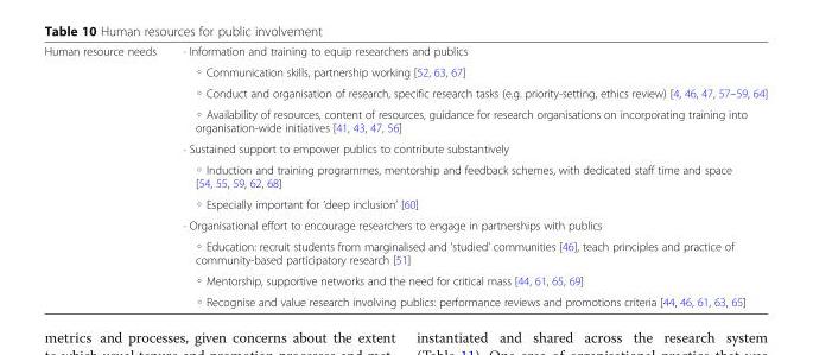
<table><tbody><tr><td rowspan="11">Human resource needs</td><td>∙ Information and training to equip researchers and publics</td></tr><tr><td>◦ Communication skills, partnership working [52, 63, 67]</td></tr><tr><td>◦ Conduct and organisation of research, specific research tasks (e.g. priority-setting, ethics review) [4, 46, 47, 57–59, 64]</td></tr><tr><td>◦ Availability of resources, content of resources, guidance for research organisations on incorporating training into organisation-wide initiatives [41, 43, 47, 56]</td></tr><tr><td>∙ Sustained support to empower publics to contribute substantively</td></tr><tr><td>◦ Induction and training programmes, mentorship and feedback schemes, with dedicated staff time and space [54, 55, 59, 62, 68]</td></tr><tr><td>◦ Especially important for ‘deep inclusion’ [60]</td></tr><tr><td>∙ Organisational effort to encourage researchers to engage in partnerships with publics</td></tr><tr><td>◦ Education: recruit students from marginalised and ‘studied’ communities [46], teach principles and practice of community-based participatory research [51]</td></tr><tr><td>◦ Mentorship, supportive networks and the need for critical mass [44, 61, 65, 69]</td></tr><tr><td>◦ Recognise and value research involving publics: performance reviews and promotions criteria [44, 46, 61, 63, 65]</td></tr></tbody></table>